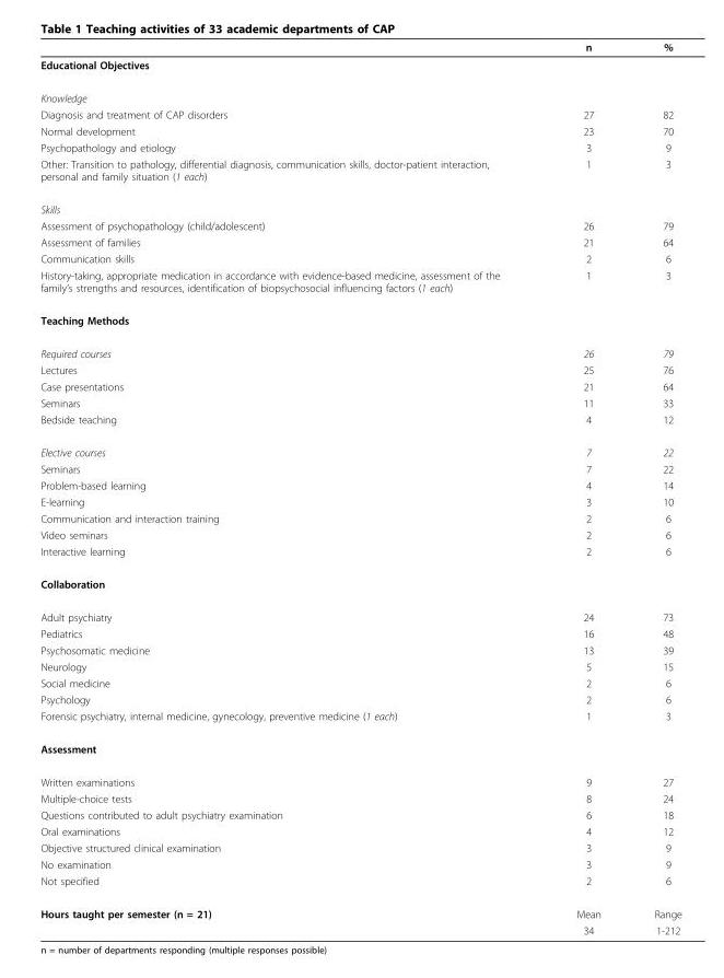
<table><thead><tr><td></td><td>n</td><td>%</td></tr></thead><tbody><tr><td colspan="3">Educational Objectives</td></tr><tr><td colspan="3">Knowledge</td></tr><tr><td>Diagnosis and treatment of CAP disorders</td><td>27</td><td>82</td></tr><tr><td>Normal development</td><td>23</td><td>70</td></tr><tr><td>Psychopathology and etiology</td><td>3</td><td>9</td></tr><tr><td>Other: Transition to pathology, differential diagnosis, communication skills, doctor-patient interaction, personal and family situation (1 each)</td><td>1</td><td>3</td></tr><tr><td colspan="3">Skills</td></tr><tr><td>Assessment of psychopathology (child/adolescent)</td><td>26</td><td>79</td></tr><tr><td>Assessment of families</td><td>21</td><td>64</td></tr><tr><td>Communication skills</td><td>2</td><td>6</td></tr><tr><td>History-taking, appropriate medication in accordance with evidence-based medicine, assessment of the family’s strengths and resources, identification of biopsychosocial influencing factors (1 each)</td><td>1</td><td>3</td></tr><tr><td colspan="3">Teaching Methods</td></tr><tr><td>Required courses</td><td>26</td><td>79</td></tr><tr><td>Lectures</td><td>25</td><td>76</td></tr><tr><td>Case presentations</td><td>21</td><td>64</td></tr><tr><td>Seminars</td><td>11</td><td>33</td></tr><tr><td>Bedside teaching</td><td>4</td><td>12</td></tr><tr><td>Elective courses</td><td>7</td><td>22</td></tr><tr><td>Seminars</td><td>7</td><td>22</td></tr><tr><td>Problem-based learning</td><td>4</td><td>14</td></tr><tr><td>E-learning</td><td>3</td><td>10</td></tr><tr><td>Communication and interaction training</td><td>2</td><td>6</td></tr><tr><td>Video seminars</td><td>2</td><td>6</td></tr><tr><td>Interactive learning</td><td>2</td><td>6</td></tr><tr><td colspan="3">Collaboration</td></tr><tr><td>Adult psychiatry</td><td>24</td><td>73</td></tr><tr><td>Pediatrics</td><td>16</td><td>48</td></tr><tr><td>Psychosomatic medicine</td><td>13</td><td>39</td></tr><tr><td>Neurology</td><td>5</td><td>15</td></tr><tr><td>Social medicine</td><td>2</td><td>6</td></tr><tr><td>Psychology</td><td>2</td><td>6</td></tr><tr><td>Forensic psychiatry, internal medicine, gynecology, preventive medicine (1 each)</td><td>1</td><td>3</td></tr><tr><td colspan="3">Assessment</td></tr><tr><td>Written examinations</td><td>9</td><td>27</td></tr><tr><td>Multiple-choice tests</td><td>8</td><td>24</td></tr><tr><td>Questions contributed to adult psychiatry examination</td><td>6</td><td>18</td></tr><tr><td>Oral examinations</td><td>4</td><td>12</td></tr><tr><td>Objective structured clinical examination</td><td>3</td><td>9</td></tr><tr><td>No examination</td><td>3</td><td>9</td></tr><tr><td>Not specified</td><td>2</td><td>6</td></tr><tr><td rowspan="2">Hours taught per semester (n = 21)</td><td>Mean</td><td>Range</td></tr><tr><td>34</td><td>1-212</td></tr></tbody></table>